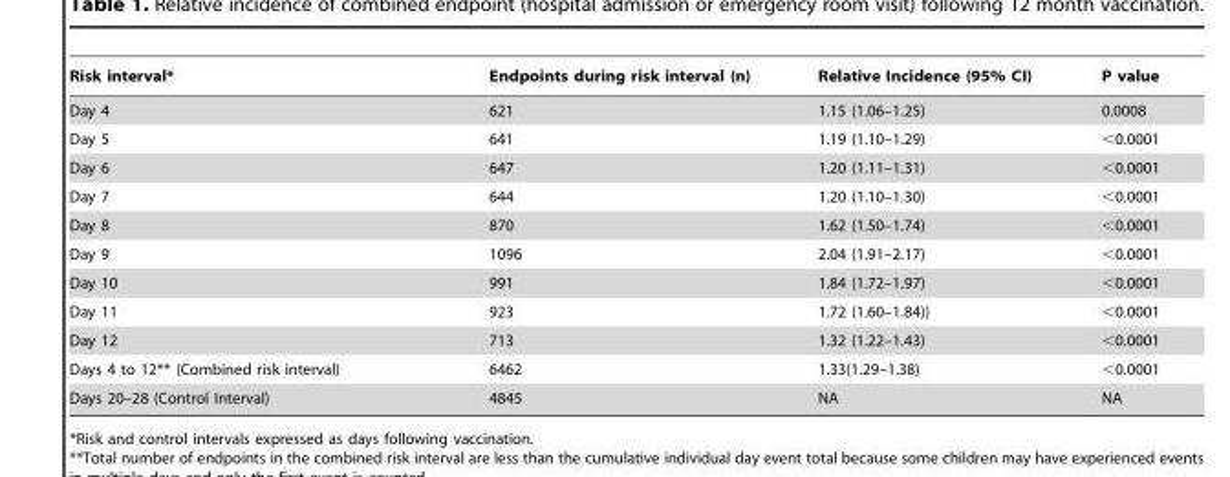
<table><thead><tr><td>Risk interval*</td><td>Endpoints during risk interval (n)</td><td>Relative Incidence (95% CI)</td><td>P value</td></tr></thead><tbody><tr><td>Day 4</td><td>621</td><td>1.15 (1.06–1.25)</td><td>0.0008</td></tr><tr><td>Day 5</td><td>641</td><td>1.19 (1.10–1.29)</td><td>&lt;0.0001</td></tr><tr><td>Day 6</td><td>647</td><td>1.20 (1.11–1.31)</td><td>&lt;0.0001</td></tr><tr><td>Day 7</td><td>644</td><td>1.20 (1.10–1.30)</td><td>&lt;0.0001</td></tr><tr><td>Day 8</td><td>870</td><td>1.62 (1.50–1.74)</td><td>&lt;0.0001</td></tr><tr><td>Day 9</td><td>1096</td><td>2.04 (1.91–2.17)</td><td>&lt;0.0001</td></tr><tr><td>Day 10</td><td>991</td><td>1.84 (1.72–1.97)</td><td>&lt;0.0001</td></tr><tr><td>Day 11</td><td>923</td><td>1.72 (1.60–1.84))</td><td>&lt;0.0001</td></tr><tr><td>Day 12</td><td>713</td><td>1.32 (1.22–1.43)</td><td>&lt;0.0001</td></tr><tr><td>Days 4 to 12** (Combined risk interval)</td><td>6462</td><td>1.33(1.29–1.38)</td><td>&lt;0.0001</td></tr><tr><td>Days 20–28 (Control Interval)</td><td>4845</td><td>NA</td><td>NA</td></tr></tbody></table>